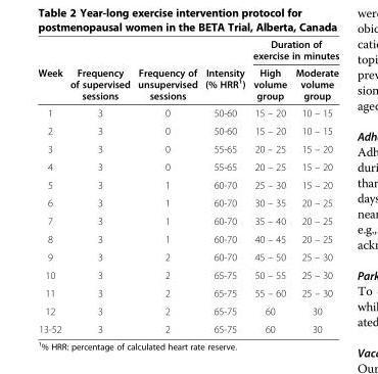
<table><thead><tr><td rowspan="2">Week</td><td rowspan="2">Frequency of supervised sessions</td><td rowspan="2">Frequency of unsupervised sessions</td><td rowspan="2">Intensity (% HRR<sup>1</sup>)</td><td colspan="2">Duration of exercise in minutes</td></tr><tr><td>High volume group</td><td>Moderate volume group</td></tr></thead><tbody><tr><td>1</td><td>3</td><td>0</td><td>50-60</td><td>15 – 20</td><td>10 – 15</td></tr><tr><td>2</td><td>3</td><td>0</td><td>50-60</td><td>15 – 20</td><td>10 – 15</td></tr><tr><td>3</td><td>3</td><td>0</td><td>55-65</td><td>20 – 25</td><td>15 – 20</td></tr><tr><td>4</td><td>3</td><td>0</td><td>55-65</td><td>20 – 25</td><td>15 – 20</td></tr><tr><td>5</td><td>3</td><td>1</td><td>60-70</td><td>25 – 30</td><td>15 – 20</td></tr><tr><td>6</td><td>3</td><td>1</td><td>60-70</td><td>30 – 35</td><td>20 – 25</td></tr><tr><td>7</td><td>3</td><td>1</td><td>60-70</td><td>35 – 40</td><td>20 – 25</td></tr><tr><td>8</td><td>3</td><td>1</td><td>60-70</td><td>40 – 45</td><td>20 – 25</td></tr><tr><td>9</td><td>3</td><td>2</td><td>60-70</td><td>45 – 50</td><td>25 – 30</td></tr><tr><td>10</td><td>3</td><td>2</td><td>65-75</td><td>50 – 55</td><td>25 – 30</td></tr><tr><td>11</td><td>3</td><td>2</td><td>65-75</td><td>55 – 60</td><td>25 – 30</td></tr><tr><td>12</td><td>3</td><td>2</td><td>65-75</td><td>60</td><td>30</td></tr><tr><td>13-52</td><td>3</td><td>2</td><td>65-75</td><td>60</td><td>30</td></tr></tbody></table>